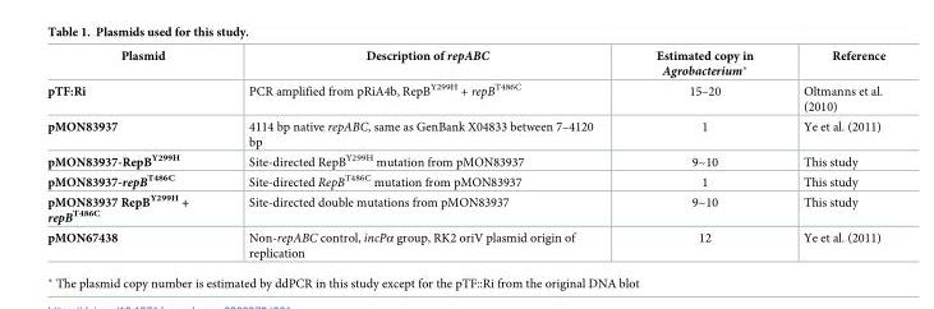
<table><thead><tr><td>Plasmid</td><td>Description of repABC</td><td>Estimated copy in Agrobacterium*</td><td>Reference</td></tr></thead><tbody><tr><td>pTF:Ri</td><td>PCR amplified from pRiA4b, RepB<sup>Y299H</sup> + repB<sup>T486C</sup></td><td>15–20</td><td>Oltmanns et al. (2010)</td></tr><tr><td>pMON83937</td><td>4114 bp native repABC, same as GenBank X04833 between 7–4120 bp</td><td>1</td><td>Ye et al. (2011)</td></tr><tr><td>pMON83937-RepB<sup>Y299H</sup></td><td>Site-directed RepB<sup>Y299H</sup> mutation from pMON83937</td><td>9~10</td><td>This study</td></tr><tr><td>pMON83937-repB<sup>T486C</sup></td><td>Site-directed RepB<sup>T486C</sup> mutation from pMON83937</td><td>1</td><td>This study</td></tr><tr><td>pMON83937 RepB<sup>Y299H</sup> + repB<sup>T486C</sup></td><td>Site-directed double mutations from pMON83937</td><td>9~10</td><td>This study</td></tr><tr><td>pMON67438</td><td>Non-repABC control, incPα group, RK2 oriV plasmid origin of replication</td><td>12</td><td>Ye et al. (2011)</td></tr></tbody></table>